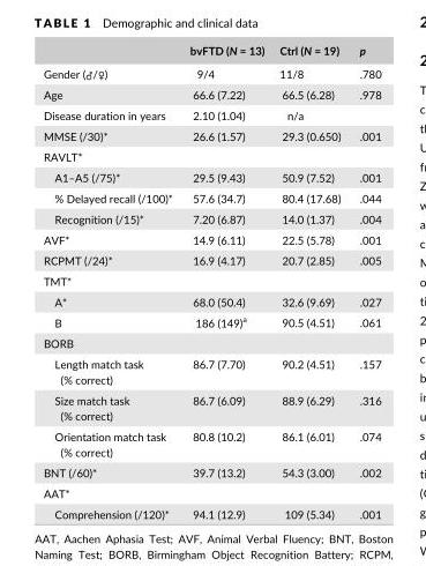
<table><thead><tr><td></td><td>bvFTD (N = 13)</td><td>Ctrl (N = 19)</td><td>p</td></tr></thead><tbody><tr><td>Gender (♂/♀)</td><td>9/4</td><td>11/8</td><td>.780</td></tr><tr><td>Age</td><td>66.6 (7.22)</td><td>66.5 (6.28)</td><td>.978</td></tr><tr><td>Disease duration in years</td><td>2.10 (1.04)</td><td>n/a</td><td></td></tr><tr><td>MMSE (/30)*</td><td>26.6 (1.57)</td><td>29.3 (0.650)</td><td>.001</td></tr><tr><td colspan="4">RAVLT*</td></tr><tr><td>A1–A5 (/75)*</td><td>29.5 (9.43)</td><td>50.9 (7.52)</td><td>.001</td></tr><tr><td>% Delayed recall (/100)*</td><td>57.6 (34.7)</td><td>80.4 (17.68)</td><td>.044</td></tr><tr><td>Recognition (/15)*</td><td>7.20 (6.87)</td><td>14.0 (1.37)</td><td>.004</td></tr><tr><td>AVF*</td><td>14.9 (6.11)</td><td>22.5 (5.78)</td><td>.001</td></tr><tr><td>RCPMT (/24)*</td><td>16.9 (4.17)</td><td>20.7 (2.85)</td><td>.005</td></tr><tr><td colspan="4">TMT*</td></tr><tr><td>A*</td><td>68.0 (50.4)</td><td>32.6 (9.69)</td><td>.027</td></tr><tr><td>B</td><td>186 (149)<sup>a</sup></td><td>90.5 (4.51)</td><td>.061</td></tr><tr><td colspan="4">BORB</td></tr><tr><td>Length match task (% correct)</td><td>86.7 (7.70)</td><td>90.2 (4.51)</td><td>.157</td></tr><tr><td>Size match task (% correct)</td><td>86.7 (6.09)</td><td>88.9 (6.29)</td><td>.316</td></tr><tr><td>Orientation match task (% correct)</td><td>80.8 (10.2)</td><td>86.1 (6.01)</td><td>.074</td></tr><tr><td>BNT (/60)*</td><td>39.7 (13.2)</td><td>54.3 (3.00)</td><td>.002</td></tr><tr><td colspan="4">AAT*</td></tr><tr><td>Comprehension (/120)*</td><td>94.1 (12.9)</td><td>109 (5.34)</td><td>.001</td></tr></tbody></table>